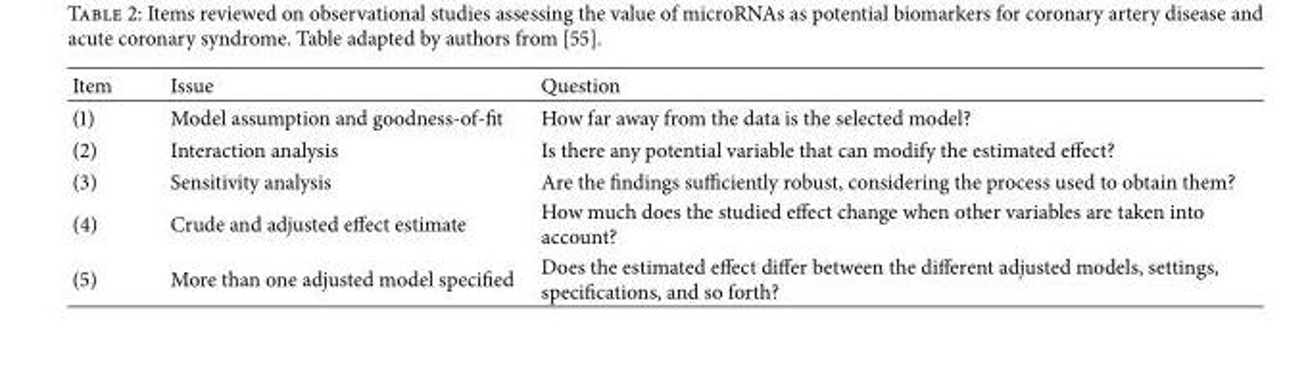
<table><thead><tr><td>Item</td><td>Issue</td><td>Question</td></tr></thead><tbody><tr><td>(1)</td><td>Model assumption and goodness-of-fit</td><td>How far away from the data is the selected model?</td></tr><tr><td>(2)</td><td>Interaction analysis</td><td>Is there any potential variable that can modify the estimated effect?</td></tr><tr><td>(3)</td><td>Sensitivity analysis</td><td>Are the findings sufficiently robust, considering the process used to obtain them?</td></tr><tr><td>(4)</td><td>Crude and adjusted effect estimate</td><td>How much does the studied effect change when other variables are taken into account?</td></tr><tr><td>(5)</td><td>More than one adjusted model specified</td><td>Does the estimated effect differ between the different adjusted models, settings, specifications, and so forth?</td></tr></tbody></table>